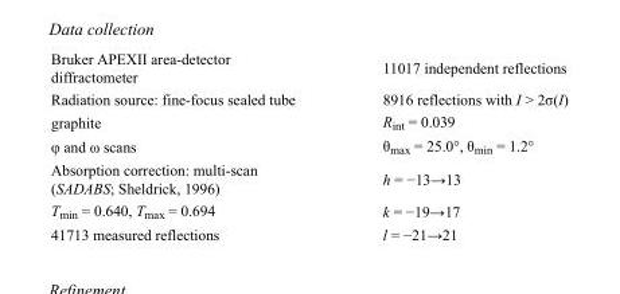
<table><tbody><tr><td>Bruker APEXII area-detector diffractometer</td><td>11017 independent reflections</td></tr><tr><td>Radiation source: fine-focus sealed tube</td><td>8916 reflections with I &gt; 2σ(I)</td></tr><tr><td>graphite</td><td>R<sub>int</sub> = 0.039</td></tr><tr><td>φ and ω scans</td><td>θ<sub>max</sub> = 25.0°, θ<sub>min</sub> = 1.2°</td></tr><tr><td>Absorption correction: multi-scan (SADABS; Sheldrick, 1996)</td><td>h = −13→13</td></tr><tr><td>T<sub>min</sub> = 0.640, T<sub>max</sub> = 0.694</td><td>k = −19→17</td></tr><tr><td>41713 measured reflections</td><td>l = −21→21</td></tr></tbody></table>